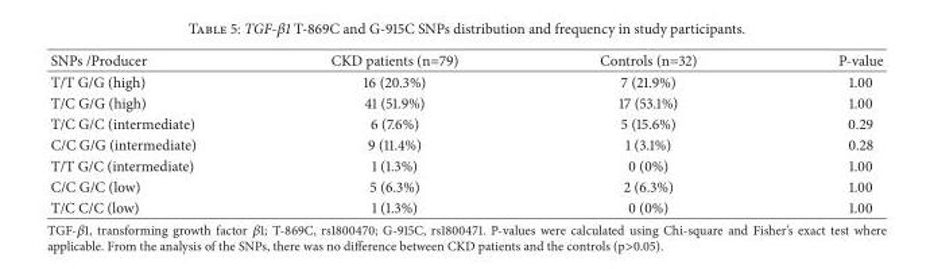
<table><thead><tr><td>SNPs /Producer</td><td>CKD patients (n=79)</td><td>Controls (n=32)</td><td>P-value</td></tr></thead><tbody><tr><td>T/T G/G (high)</td><td>16 (20.3%)</td><td>7 (21.9%)</td><td>1.00</td></tr><tr><td>T/C G/G (high)</td><td>41 (51.9%)</td><td>17 (53.1%)</td><td>1.00</td></tr><tr><td>T/C G/C (intermediate)</td><td>6 (7.6%)</td><td>5 (15.6%)</td><td>0.29</td></tr><tr><td>C/C G/G (intermediate)</td><td>9 (11.4%)</td><td>1 (3.1%)</td><td>0.28</td></tr><tr><td>T/T G/C (intermediate)</td><td>1 (1.3%)</td><td>0 (0%)</td><td>1.00</td></tr><tr><td>C/C G/C (low)</td><td>5 (6.3%)</td><td>2 (6.3%)</td><td>1.00</td></tr><tr><td>T/C C/C (low)</td><td>1 (1.3%)</td><td>0 (0%)</td><td>1.00</td></tr></tbody></table>